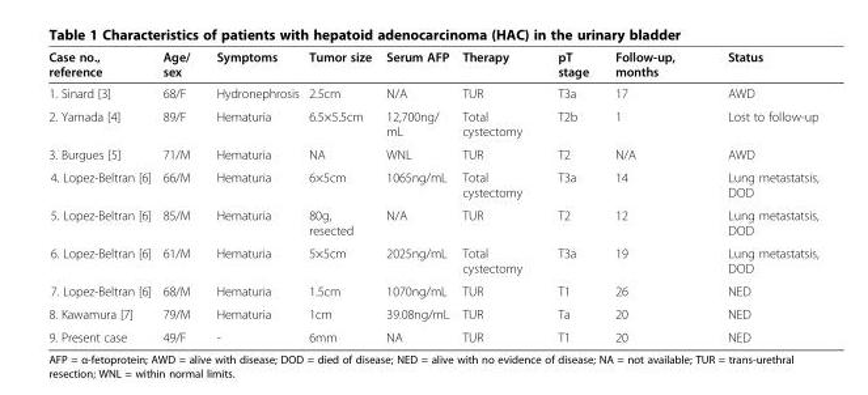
<table><thead><tr><td>Case no., reference</td><td>Age/ sex</td><td>Symptoms</td><td>Tumor size</td><td>Serum AFP</td><td>Therapy</td><td>pT stage</td><td>Follow-up, months</td><td>Status</td></tr></thead><tbody><tr><td>1. Sinard [3]</td><td>68/F</td><td>Hydronephrosis</td><td>2.5cm</td><td>N/A</td><td>TUR</td><td>T3a</td><td>17</td><td>AWD</td></tr><tr><td>2. Yamada [4]</td><td>89/F</td><td>Hematuria</td><td>6.5×5.5cm</td><td>12,700ng/ mL</td><td>Total cystectomy</td><td>T2b</td><td>1</td><td>Lost to follow-up</td></tr><tr><td>3. Burgues [5]</td><td>71/M</td><td>Hematuria</td><td>NA</td><td>WNL</td><td>TUR</td><td>T2</td><td>N/A</td><td>AWD</td></tr><tr><td>4. Lopez-Beltran [6]</td><td>66/M</td><td>Hematuria</td><td>6×5cm</td><td>1065ng/mL</td><td>Total cystectomy</td><td>T3a</td><td>14</td><td>Lung metastatsis, DOD</td></tr><tr><td>5. Lopez-Beltran [6]</td><td>85/M</td><td>Hematuria</td><td>80g, resected</td><td>N/A</td><td>TUR</td><td>T2</td><td>12</td><td>Lung metastatsis, DOD</td></tr><tr><td>6. Lopez-Beltran [6]</td><td>61/M</td><td>Hematuria</td><td>5×5cm</td><td>2025ng/mL</td><td>Total cystectomy</td><td>T3a</td><td>19</td><td>Lung metastatsis, DOD</td></tr><tr><td>7. Lopez-Beltran [6]</td><td>68/M</td><td>Hematuria</td><td>1.5cm</td><td>1070ng/mL</td><td>TUR</td><td>T1</td><td>26</td><td>NED</td></tr><tr><td>8. Kawamura [7]</td><td>79/M</td><td>Hematuria</td><td>1cm</td><td>39.08ng/mL</td><td>TUR</td><td>Ta</td><td>20</td><td>NED</td></tr><tr><td>9. Present case</td><td>49/F</td><td>-</td><td>6mm</td><td>NA</td><td>TUR</td><td>T1</td><td>20</td><td>NED</td></tr></tbody></table>